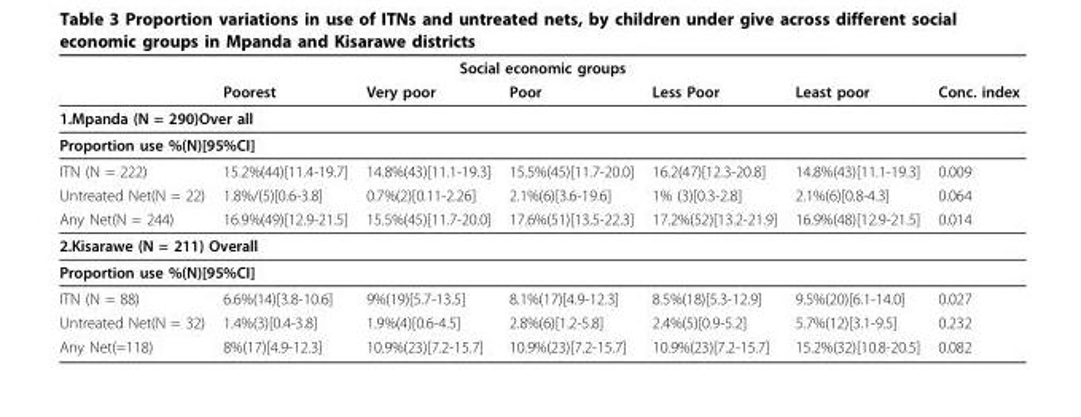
<table><thead><tr><td colspan="7">Social economic groups</td></tr><tr><td></td><td>Poorest</td><td>Very poor</td><td>Poor</td><td>Less Poor</td><td>Least poor</td><td>Conc. index</td></tr></thead><tbody><tr><td colspan="7">1.Mpanda (N = 290)Over all</td></tr><tr><td colspan="7">Proportion use %(N)[95%CI]</td></tr><tr><td>ITN (N = 222)</td><td>15.2%(44)[11.4-19.7]</td><td>14.8%(43)[11.1-19.3]</td><td>15.5%(45)[11.7-20.0]</td><td>16.2(47)[12.3-20.8]</td><td>14.8%(43)[11.1-19.3]</td><td>0.009</td></tr><tr><td>Untreated Net(N = 22)</td><td>1.8%/(5)[0.6-3.8]</td><td>0.7%(2)[0.11-2.26]</td><td>2.1%(6)[3.6-19.6]</td><td>1% (3)[0.3-2.8]</td><td>2.1%(6)[0.8-4.3]</td><td>0.064</td></tr><tr><td>Any Net(N = 244)</td><td>16.9%(49)[12.9-21.5]</td><td>15.5%(45)[11.7-20.0]</td><td>17.6%(51)[13.5-22.3]</td><td>17.2%(52)[13.2-21.9]</td><td>16.9%(48)[12.9-21.5]</td><td>0.014</td></tr><tr><td colspan="7">2.Kisarawe (N = 211) Overall</td></tr><tr><td colspan="7">Proportion use %(N)[95%CI]</td></tr><tr><td>ITN (N = 88)</td><td>6.6%(14)[3.8-10.6]</td><td>9%(19)[5.7-13.5]</td><td>8.1%(17)[4.9-12.3]</td><td>8.5%(18)[5.3-12.9]</td><td>9.5%(20)[6.1-14.0]</td><td>0.027</td></tr><tr><td>Untreated Net(N = 32)</td><td>1.4%(3)[0.4-3.8]</td><td>1.9%(4)[0.6-4.5]</td><td>2.8%(6)[1.2-5.8]</td><td>2.4%(5)[0.9-5.2]</td><td>5.7%(12)[3.1-9.5]</td><td>0.232</td></tr><tr><td>Any Net(=118)</td><td>8%(17)[4.9-12.3]</td><td>10.9%(23)[7.2-15.7]</td><td>10.9%(23)[7.2-15.7]</td><td>10.9%(23)[7.2-15.7]</td><td>15.2%(32)[10.8-20.5]</td><td>0.082</td></tr></tbody></table>